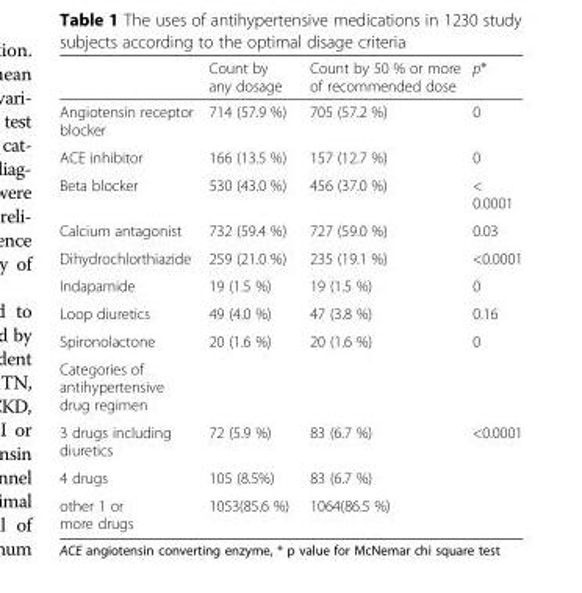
<table><thead><tr><td></td><td>Count by any dosage</td><td>Count by 50 % or more of recommended dose</td><td>p*</td></tr></thead><tbody><tr><td>Angiotensin receptor blocker</td><td>714 (57.9 %)</td><td>705 (57.2 %)</td><td>0</td></tr><tr><td>ACE inhibitor</td><td>166 (13.5 %)</td><td>157 (12.7 %)</td><td>0</td></tr><tr><td>Beta blocker</td><td>530 (43.0 %)</td><td>456 (37.0 %)</td><td>&lt; 0.0001</td></tr><tr><td>Calcium antagonist</td><td>732 (59.4 %)</td><td>727 (59.0 %)</td><td>0.03</td></tr><tr><td>Dihydrochlorthiazide</td><td>259 (21.0 %)</td><td>235 (19.1 %)</td><td>&lt;0.0001</td></tr><tr><td>Indapamide</td><td>19 (1.5 %)</td><td>19 (1.5 %)</td><td>0</td></tr><tr><td>Loop diuretics</td><td>49 (4.0 %)</td><td>47 (3.8 %)</td><td>0.16</td></tr><tr><td>Spironolactone</td><td>20 (1.6 %)</td><td>20 (1.6 %)</td><td>0</td></tr><tr><td colspan="4">Categories of antihypertensive drug regimen</td></tr><tr><td>3 drugs including diuretics</td><td>72 (5.9 %)</td><td>83 (6.7 %)</td><td>&lt;0.0001</td></tr><tr><td>4 drugs</td><td>105 (8.5%)</td><td>83 (6.7 %)</td><td></td></tr><tr><td>other 1 or more drugs</td><td>1053(85.6 %)</td><td>1064(86.5 %)</td><td></td></tr></tbody></table>